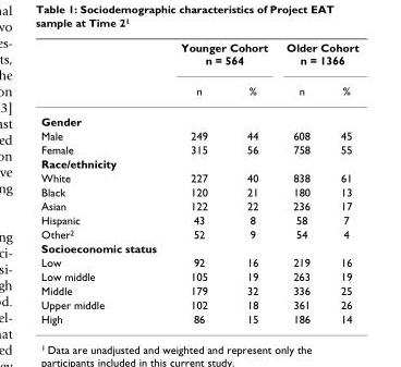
<table><thead><tr><td rowspan="2"></td><td colspan="2">Younger Cohort n = 564</td><td colspan="2">Older Cohort n = 1366</td></tr><tr><td>n</td><td>%</td><td>n</td><td>%</td></tr></thead><tbody><tr><td colspan="5">Gender</td></tr><tr><td>Male</td><td>249</td><td>44</td><td>608</td><td>45</td></tr><tr><td>Female</td><td>315</td><td>56</td><td>758</td><td>55</td></tr><tr><td colspan="5">Race/ethnicity</td></tr><tr><td>White</td><td>227</td><td>40</td><td>838</td><td>61</td></tr><tr><td>Black</td><td>120</td><td>21</td><td>180</td><td>13</td></tr><tr><td>Asian</td><td>122</td><td>22</td><td>236</td><td>17</td></tr><tr><td>Hispanic</td><td>43</td><td>8</td><td>58</td><td>7</td></tr><tr><td>Other<sup>2</sup></td><td>52</td><td>9</td><td>54</td><td>4</td></tr><tr><td colspan="5">Socioeconomic status</td></tr><tr><td>Low</td><td>92</td><td>16</td><td>219</td><td>16</td></tr><tr><td>Low middle</td><td>105</td><td>19</td><td>263</td><td>19</td></tr><tr><td>Middle</td><td>179</td><td>32</td><td>336</td><td>25</td></tr><tr><td>Upper middle</td><td>102</td><td>18</td><td>361</td><td>26</td></tr><tr><td>High</td><td>86</td><td>15</td><td>186</td><td>14</td></tr></tbody></table>